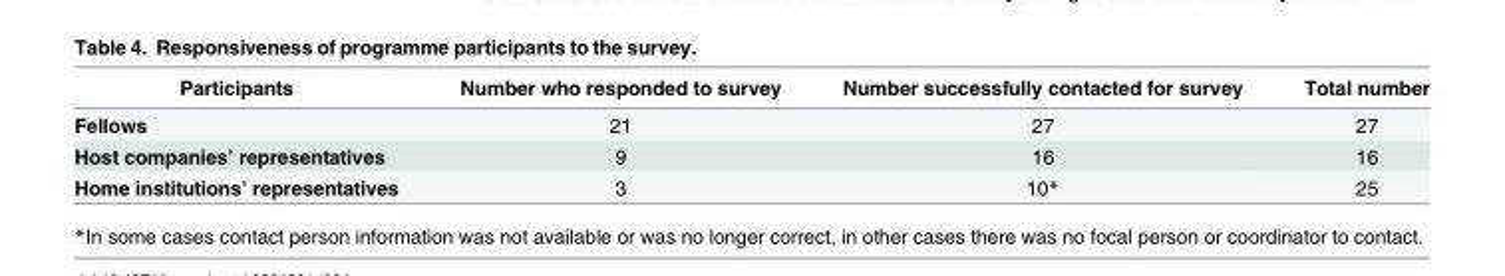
<table><thead><tr><td>Participants</td><td>Number who responded to survey</td><td>Number successfully contacted for survey</td><td>Total number</td></tr></thead><tbody><tr><td>Fellows</td><td>21</td><td>27</td><td>27</td></tr><tr><td>Host companies’ representatives</td><td>9</td><td>16</td><td>16</td></tr><tr><td>Home institutions’ representatives</td><td>3</td><td>10*</td><td>25</td></tr></tbody></table>